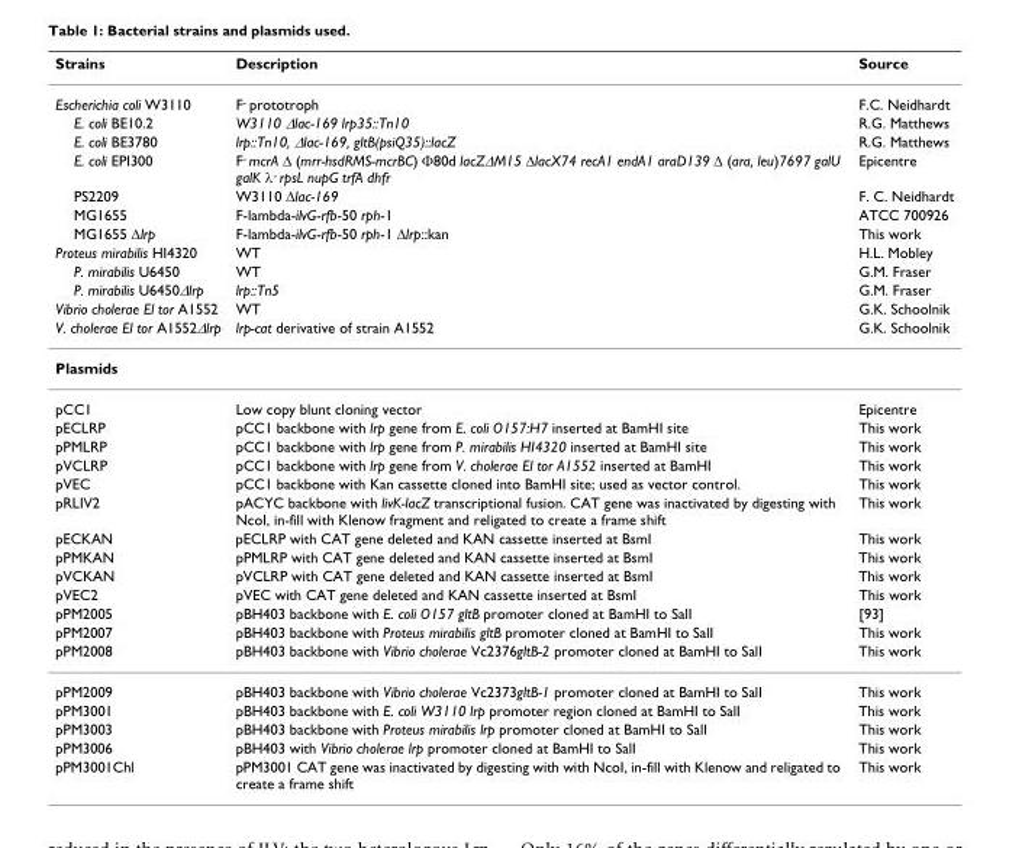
<table><thead><tr><td>Strains</td><td>Description</td><td>Source</td></tr></thead><tbody><tr><td>Escherichia coli W3110</td><td>F<sup>-</sup> prototroph</td><td>F.C. Neidhardt</td></tr><tr><td>E. coli BE10.2</td><td>W3110 Δlac-169 lrp35::Tn10</td><td>R.G. Matthews</td></tr><tr><td>E. coli BE3780</td><td>lrp::Tn10, Δlac-169, gltB(psiQ35)::lacZ</td><td>R.G. Matthews</td></tr><tr><td>E. coli EPI300</td><td>F<sup>-</sup> mcrA Δ (mrr-hsdRMS-mcrBC) Φ80d lacZΔM15 ΔlacX74 recA1 endA1 araD139 Δ (ara, leu)7697 galU galK λ<sup>-</sup> rpsL nupG trfA dhfr</td><td>Epicentre</td></tr><tr><td>PS2209</td><td>W3110 Δlac-169</td><td>F. C. Neidhardt</td></tr><tr><td>MG1655</td><td>F-lambda-ilvG-rfb-50 rph-1</td><td>ATCC 700926</td></tr><tr><td>MG1655 Δlrp</td><td>F-lambda-ilvG-rfb-50 rph-1 Δlrp::kan</td><td>This work</td></tr><tr><td>Proteus mirabilis HI4320</td><td>WT</td><td>H.L. Mobley</td></tr><tr><td>P. mirabilis U6450</td><td>WT</td><td>G.M. Fraser</td></tr><tr><td>P. mirabilis U6450Δlrp</td><td>lrp::Tn5</td><td>G.M. Fraser</td></tr><tr><td>Vibrio cholerae El tor A1552</td><td>WT</td><td>G.K. Schoolnik</td></tr><tr><td>V. cholerae El tor A1552Δlrp</td><td>lrp-cat derivative of strain A1552</td><td>G.K. Schoolnik</td></tr><tr><td colspan="3">Plasmids</td></tr><tr><td>pCC1</td><td>Low copy blunt cloning vector</td><td>Epicentre</td></tr><tr><td>pECLRP</td><td>pCC1 backbone with lrp gene from E. coli O157:H7 inserted at BamHI site</td><td>This work</td></tr><tr><td>pPMLRP</td><td>pCC1 backbone with lrp gene from P. mirabilis HI4320 inserted at BamHI site</td><td>This work</td></tr><tr><td>pVCLRP</td><td>pCC1 backbone with lrp gene from V. cholerae El tor A1552 inserted at BamHI</td><td>This work</td></tr><tr><td>pVEC</td><td>pCC1 backbone with Kan cassette cloned into BamHI site; used as vector control.</td><td>This work</td></tr><tr><td>pRLIV2</td><td>pACYC backbone with livK-lacZ transcriptional fusion. CAT gene was inactivated by digesting with NcoI, in-fill with Klenow fragment and religated to create a frame shift</td><td>This work</td></tr><tr><td>pECKAN</td><td>pECLRP with CAT gene deleted and KAN cassette inserted at BsmI</td><td>This work</td></tr><tr><td>pPMKAN</td><td>pPMLRP with CAT gene deleted and KAN cassette inserted at BsmI</td><td>This work</td></tr><tr><td>pVCKAN</td><td>pVCLRP with CAT gene deleted and KAN cassette inserted at BsmI</td><td>This work</td></tr><tr><td>pVEC2</td><td>pVEC with CAT gene deleted and KAN cassette inserted at BsmI</td><td>This work</td></tr><tr><td>pPM2005</td><td>pBH403 backbone with E. coli O157 gltB promoter cloned at BamHI to SalI</td><td>[93]</td></tr><tr><td>pPM2007</td><td>pBH403 backbone with Proteus mirabilis gltB promoter cloned at BamHI to SalI</td><td>This work</td></tr><tr><td>pPM2008</td><td>pBH403 backbone with Vibrio cholerae Vc2376gltB-2 promoter cloned at BamHI to SalI</td><td>This work</td></tr><tr><td>pPM2009</td><td>pBH403 backbone with Vibrio cholerae Vc2373gltB-1 promoter cloned at BamHI to SalI</td><td>This work</td></tr><tr><td>pPM3001</td><td>pBH403 backbone with E. coli W3110 lrp promoter region cloned at BamHI to SalI</td><td>This work</td></tr><tr><td>pPM3003</td><td>pBH403 backbone with Proteus mirabilis lrp promoter cloned at BamHI to SalI</td><td>This work</td></tr><tr><td>pPM3006</td><td>pBH403 with Vibrio cholerae lrp promoter cloned at BamHI to SalI</td><td>This work</td></tr><tr><td>pPM3001Chl</td><td>pPM3001 CAT gene was inactivated by digesting with with NcoI, in-fill with Klenow and religated to create a frame shift</td><td>This work</td></tr></tbody></table>